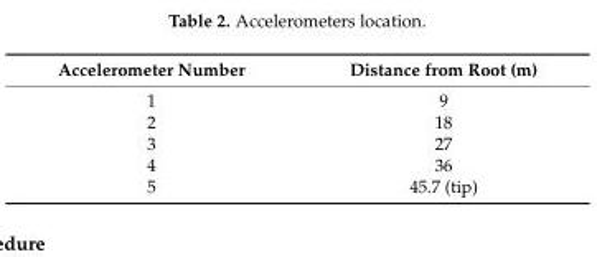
<table><thead><tr><td>Accelerometer Number</td><td>Distance from Root (m)</td></tr></thead><tbody><tr><td>1</td><td>9</td></tr><tr><td>2</td><td>18</td></tr><tr><td>3</td><td>27</td></tr><tr><td>4</td><td>36</td></tr><tr><td>5</td><td>45.7 (tip)</td></tr></tbody></table>